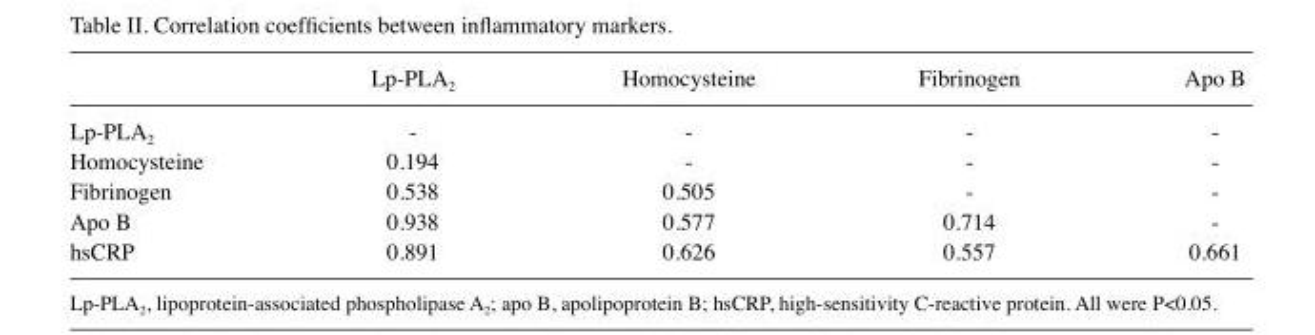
<table><thead><tr><td></td><td>Lp-PLA<sub>2</sub></td><td>Homocysteine</td><td>Fibrinogen</td><td>Apo B</td></tr></thead><tbody><tr><td>Lp-PLA<sub>2</sub></td><td>-</td><td>-</td><td>-</td><td>-</td></tr><tr><td>Homocysteine</td><td>0.194</td><td>-</td><td>-</td><td>-</td></tr><tr><td>Fibrinogen</td><td>0.538</td><td>0.505</td><td>-</td><td>-</td></tr><tr><td>Apo B</td><td>0.938</td><td>0.577</td><td>0.714</td><td>-</td></tr><tr><td>hsCRP</td><td>0.891</td><td>0.626</td><td>0.557</td><td>0.661</td></tr></tbody></table>